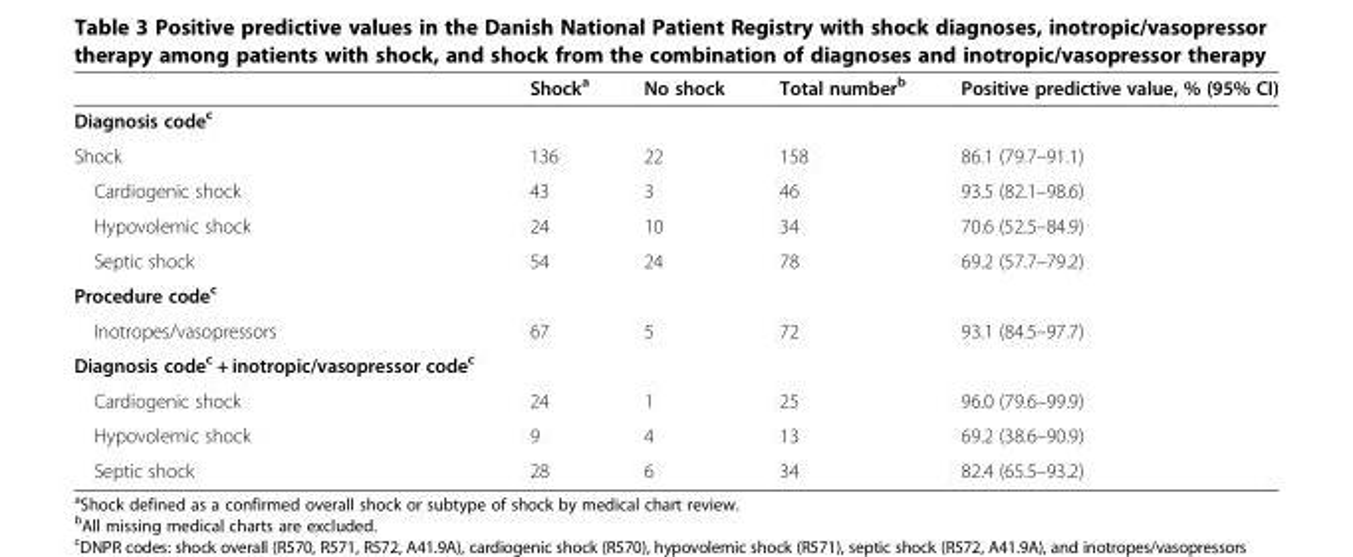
<table><thead><tr><td></td><td>Shock<sup>a</sup></td><td>No shock</td><td>Total number<sup>b</sup></td><td>Positive predictive value, % (95% CI)</td></tr></thead><tbody><tr><td colspan="5">Diagnosis code<sup>c</sup></td></tr><tr><td>Shock</td><td>136</td><td>22</td><td>158</td><td>86.1 (79.7–91.1)</td></tr><tr><td>Cardiogenic shock</td><td>43</td><td>3</td><td>46</td><td>93.5 (82.1–98.6)</td></tr><tr><td>Hypovolemic shock</td><td>24</td><td>10</td><td>34</td><td>70.6 (52.5–84.9)</td></tr><tr><td>Septic shock</td><td>54</td><td>24</td><td>78</td><td>69.2 (57.7–79.2)</td></tr><tr><td colspan="5">Procedure code<sup>c</sup></td></tr><tr><td>Inotropes/vasopressors</td><td>67</td><td>5</td><td>72</td><td>93.1 (84.5–97.7)</td></tr><tr><td colspan="5">Diagnosis code<sup>c</sup> + inotropic/vasopressor code<sup>c</sup></td></tr><tr><td>Cardiogenic shock</td><td>24</td><td>1</td><td>25</td><td>96.0 (79.6–99.9)</td></tr><tr><td>Hypovolemic shock</td><td>9</td><td>4</td><td>13</td><td>69.2 (38.6–90.9)</td></tr><tr><td>Septic shock</td><td>28</td><td>6</td><td>34</td><td>82.4 (65.5–93.2)</td></tr></tbody></table>